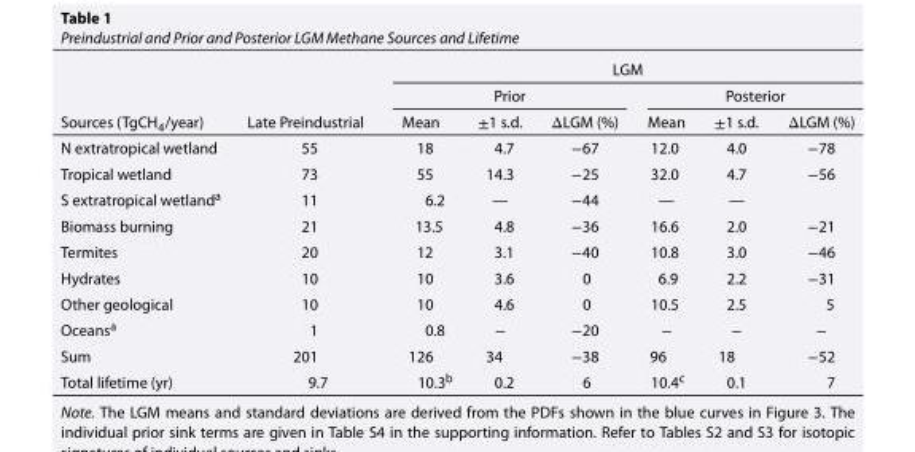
<table><thead><tr><td rowspan="3">Sources (TgCH<sub>4</sub>/year)</td><td rowspan="3">Late Preindustrial</td><td colspan="6">LGM</td></tr><tr><td colspan="3">Prior</td><td colspan="3">Posterior</td></tr><tr><td>Mean</td><td>±1 s.d.</td><td>ΔLGM (%)</td><td>Mean</td><td>±1 s.d.</td><td>ΔLGM (%)</td></tr></thead><tbody><tr><td>N extratropical wetland</td><td>55</td><td>18</td><td>4.7</td><td>−67</td><td>12.0</td><td>4.0</td><td>−78</td></tr><tr><td>Tropical wetland</td><td>73</td><td>55</td><td>14.3</td><td>−25</td><td>32.0</td><td>4.7</td><td>−56</td></tr><tr><td>S extratropical wetland<sup>a</sup></td><td>11</td><td>6.2</td><td>—</td><td>−44</td><td>—</td><td>—</td><td></td></tr><tr><td>Biomass burning</td><td>21</td><td>13.5</td><td>4.8</td><td>−36</td><td>16.6</td><td>2.0</td><td>−21</td></tr><tr><td>Termites</td><td>20</td><td>12</td><td>3.1</td><td>−40</td><td>10.8</td><td>3.0</td><td>−46</td></tr><tr><td>Hydrates</td><td>10</td><td>10</td><td>3.6</td><td>0</td><td>6.9</td><td>2.2</td><td>−31</td></tr><tr><td>Other geological</td><td>10</td><td>10</td><td>4.6</td><td>0</td><td>10.5</td><td>2.5</td><td>5</td></tr><tr><td>Oceans<sup>a</sup></td><td>1</td><td>0.8</td><td>−</td><td>−20</td><td>−</td><td>−</td><td>−</td></tr><tr><td>Sum</td><td>201</td><td>126</td><td>34</td><td>−38</td><td>96</td><td>18</td><td>−52</td></tr><tr><td>Total lifetime (yr)</td><td>9.7</td><td>10.3<sup>b</sup></td><td>0.2</td><td>6</td><td>10.4<sup>c</sup></td><td>0.1</td><td>7</td></tr></tbody></table>